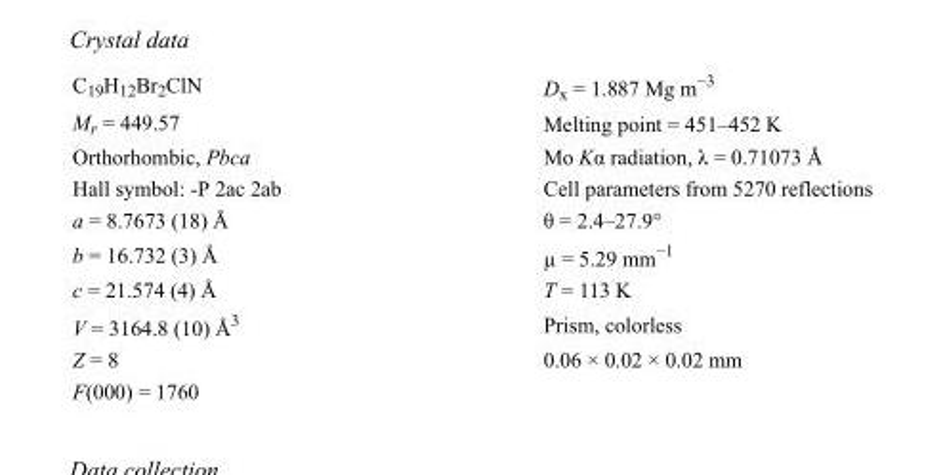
<table><tbody><tr><td>C<sub>19</sub>H<sub>12</sub>Br<sub>2</sub>ClN</td><td>D<sub>x</sub> = 1.887 Mg m<sup>−3</sup></td></tr><tr><td>M<sub>r</sub> = 449.57</td><td>Melting point = 451–452 K</td></tr><tr><td>Orthorhombic, Pbca</td><td>Mo Kα radiation, λ = 0.71073 Å</td></tr><tr><td>Hall symbol: -P 2ac 2ab</td><td>Cell parameters from 5270 reflections</td></tr><tr><td>a = 8.7673 (18) Å</td><td>θ = 2.4–27.9°</td></tr><tr><td>b = 16.732 (3) Å</td><td>µ = 5.29 mm<sup>−1</sup></td></tr><tr><td>c = 21.574 (4) Å</td><td>T = 113 K</td></tr><tr><td>V = 3164.8 (10) Å<sup>3</sup></td><td>Prism, colorless</td></tr><tr><td>Z = 8</td><td>0.06 × 0.02 × 0.02 mm</td></tr><tr><td>F(000) = 1760</td><td></td></tr></tbody></table>